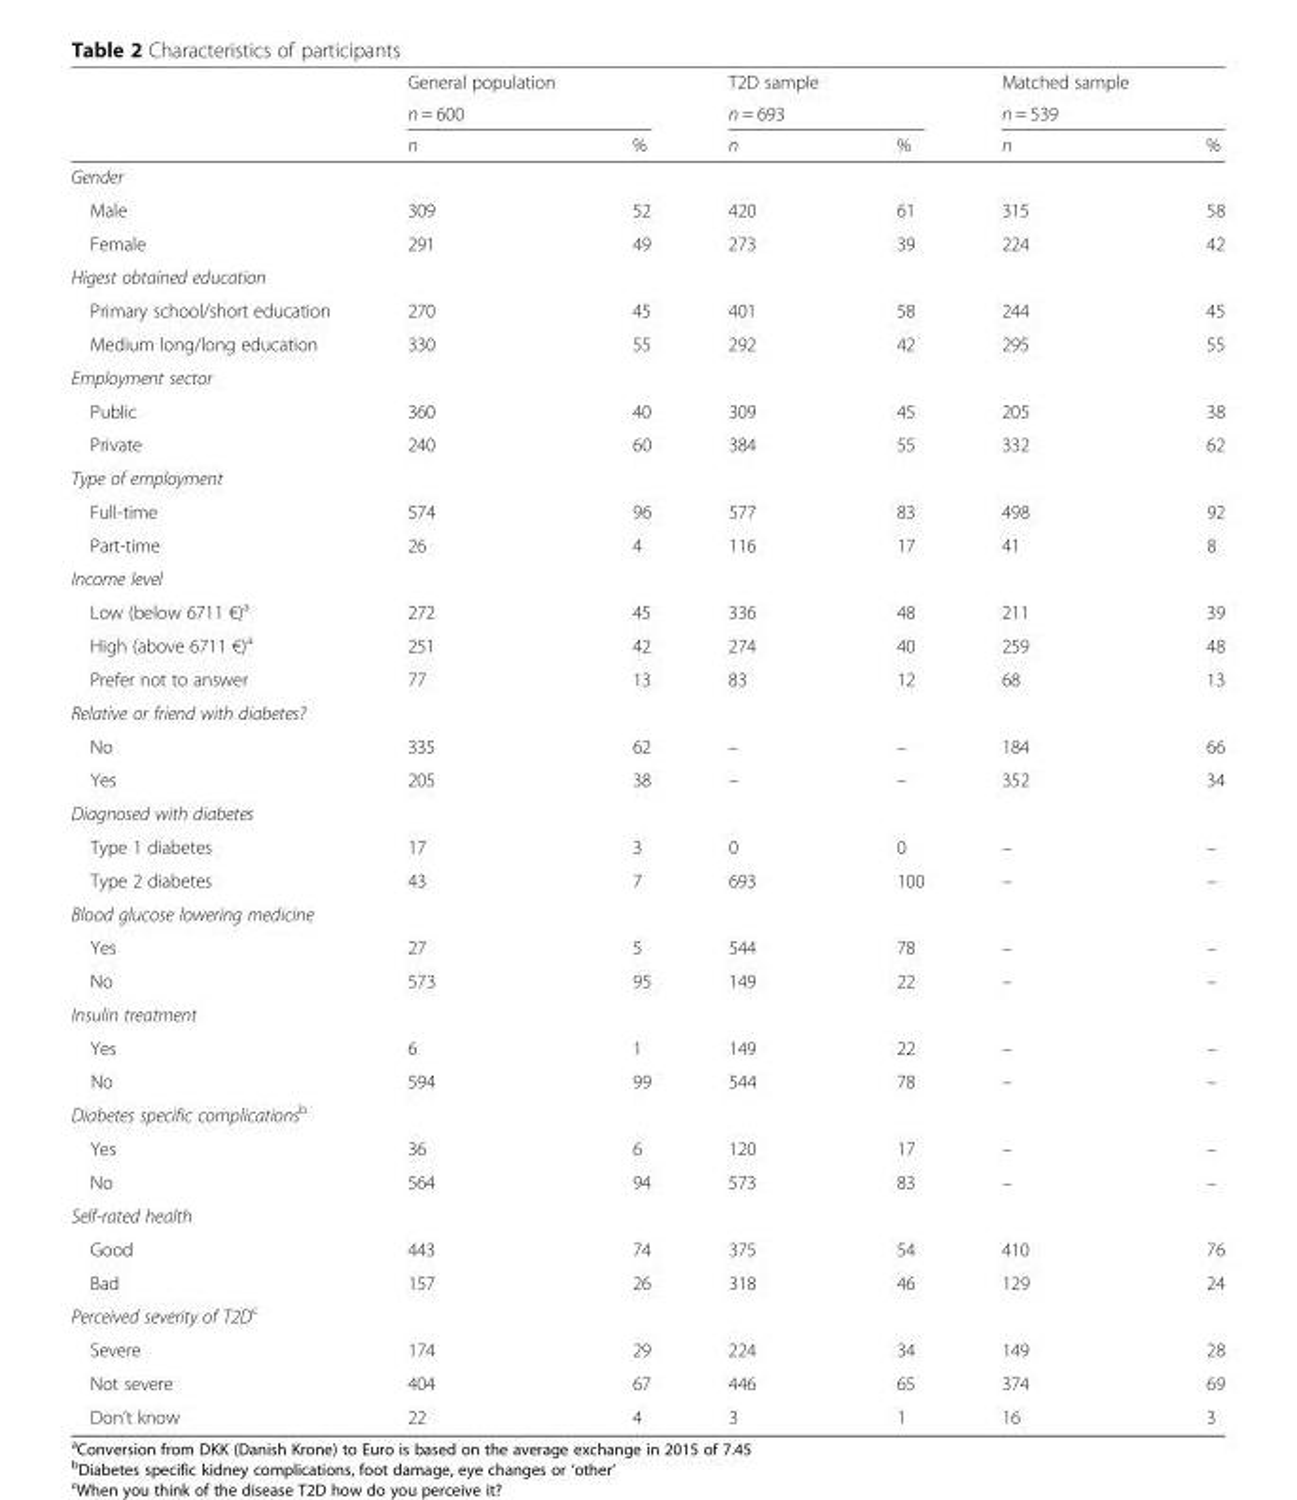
<table><thead><tr><td rowspan="3"></td><td>General population</td><td></td><td>T2D sample</td><td></td><td>Matched sample</td><td></td></tr><tr><td colspan="2">n = 600</td><td colspan="2">n = 693</td><td colspan="2">n = 539</td></tr><tr><td>n</td><td>%</td><td>n</td><td>%</td><td>n</td><td>%</td></tr></thead><tbody><tr><td colspan="7">Gender</td></tr><tr><td>Male</td><td>309</td><td>52</td><td>420</td><td>61</td><td>315</td><td>58</td></tr><tr><td>Female</td><td>291</td><td>49</td><td>273</td><td>39</td><td>224</td><td>42</td></tr><tr><td colspan="7">Higest obtained education</td></tr><tr><td>Primary school/short education</td><td>270</td><td>45</td><td>401</td><td>58</td><td>244</td><td>45</td></tr><tr><td>Medium long/long education</td><td>330</td><td>55</td><td>292</td><td>42</td><td>295</td><td>55</td></tr><tr><td colspan="7">Employment sector</td></tr><tr><td>Public</td><td>360</td><td>40</td><td>309</td><td>45</td><td>205</td><td>38</td></tr><tr><td>Private</td><td>240</td><td>60</td><td>384</td><td>55</td><td>332</td><td>62</td></tr><tr><td colspan="7">Type of employment</td></tr><tr><td>Full-time</td><td>574</td><td>96</td><td>577</td><td>83</td><td>498</td><td>92</td></tr><tr><td>Part-time</td><td>26</td><td>4</td><td>116</td><td>17</td><td>41</td><td>8</td></tr><tr><td colspan="7">Income level</td></tr><tr><td>Low (below 6711 €)<sup>a</sup></td><td>272</td><td>45</td><td>336</td><td>48</td><td>211</td><td>39</td></tr><tr><td>High (above 6711 €)<sup>a</sup></td><td>251</td><td>42</td><td>274</td><td>40</td><td>259</td><td>48</td></tr><tr><td>Prefer not to answer</td><td>77</td><td>13</td><td>83</td><td>12</td><td>68</td><td>13</td></tr><tr><td colspan="7">Relative or friend with diabetes?</td></tr><tr><td>No</td><td>335</td><td>62</td><td>–</td><td>–</td><td>184</td><td>66</td></tr><tr><td>Yes</td><td>205</td><td>38</td><td>–</td><td>–</td><td>352</td><td>34</td></tr><tr><td colspan="7">Diagnosed with diabetes</td></tr><tr><td>Type 1 diabetes</td><td>17</td><td>3</td><td>0</td><td>0</td><td>–</td><td>–</td></tr><tr><td>Type 2 diabetes</td><td>43</td><td>7</td><td>693</td><td>100</td><td>–</td><td>–</td></tr><tr><td colspan="7">Blood glucose lowering medicine</td></tr><tr><td>Yes</td><td>27</td><td>5</td><td>544</td><td>78</td><td>–</td><td>–</td></tr><tr><td>No</td><td>573</td><td>95</td><td>149</td><td>22</td><td>–</td><td>–</td></tr><tr><td colspan="7">Insulin treatment</td></tr><tr><td>Yes</td><td>6</td><td>1</td><td>149</td><td>22</td><td>–</td><td>–</td></tr><tr><td>No</td><td>594</td><td>99</td><td>544</td><td>78</td><td>–</td><td>–</td></tr><tr><td colspan="7">Diabetes specific complications<sup>b</sup></td></tr><tr><td>Yes</td><td>36</td><td>6</td><td>120</td><td>17</td><td>–</td><td>–</td></tr><tr><td>No</td><td>564</td><td>94</td><td>573</td><td>83</td><td>–</td><td>–</td></tr><tr><td colspan="7">Self-rated health</td></tr><tr><td>Good</td><td>443</td><td>74</td><td>375</td><td>54</td><td>410</td><td>76</td></tr><tr><td>Bad</td><td>157</td><td>26</td><td>318</td><td>46</td><td>129</td><td>24</td></tr><tr><td colspan="7">Perceived severity of T2D<sup>c</sup></td></tr><tr><td>Severe</td><td>174</td><td>29</td><td>224</td><td>34</td><td>149</td><td>28</td></tr><tr><td>Not severe</td><td>404</td><td>67</td><td>446</td><td>65</td><td>374</td><td>69</td></tr><tr><td>Don’t know</td><td>22</td><td>4</td><td>3</td><td>1</td><td>16</td><td>3</td></tr></tbody></table>